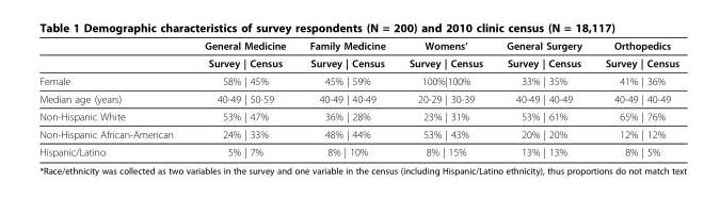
<table><thead><tr><td></td><td>General Medicine</td><td>Family Medicine</td><td>Womens’</td><td>General Surgery</td><td>Orthopedics</td></tr></thead><tbody><tr><td></td><td>Survey | Census</td><td>Survey | Census</td><td>Survey | Census</td><td>Survey | Census</td><td>Survey | Census</td></tr><tr><td>Female</td><td>58% | 45%</td><td>45% | 59%</td><td>100%|100%</td><td>33% | 35%</td><td>41% | 36%</td></tr><tr><td>Median age (years)</td><td>40-49 | 50-59</td><td>40-49 | 40-49</td><td>20-29 | 30-39</td><td>40-49 | 40-49</td><td>40-49 | 40-49</td></tr><tr><td>Non-Hispanic White</td><td>53% | 47%</td><td>36% | 28%</td><td>23% | 31%</td><td>53% | 61%</td><td>65% | 76%</td></tr><tr><td>Non-Hispanic African-American</td><td>24% | 33%</td><td>48% | 44%</td><td>53% | 43%</td><td>20% | 20%</td><td>12% | 12%</td></tr><tr><td>Hispanic/Latino</td><td>5% | 7%</td><td>8% | 10%</td><td>8% | 15%</td><td>13% | 13%</td><td>8% | 5%</td></tr></tbody></table>